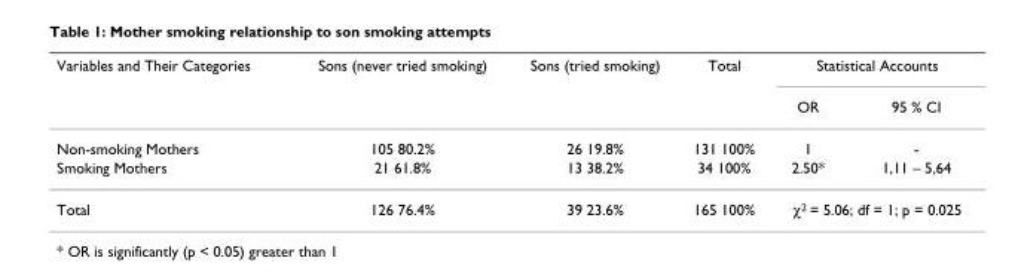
<table><thead><tr><td rowspan="2">Variables and Their Categories</td><td rowspan="2">Sons (never tried smoking)</td><td rowspan="2">Sons (tried smoking)</td><td rowspan="2">Total</td><td colspan="2">Statistical Accounts</td></tr><tr><td>OR</td><td>95 % CI</td></tr></thead><tbody><tr><td>Non-smoking Mothers</td><td>105 80.2%</td><td>26 19.8%</td><td>131 100%</td><td>1</td><td>-</td></tr><tr><td>Smoking Mothers</td><td>21 61.8%</td><td>13 38.2%</td><td>34 100%</td><td>2.50*</td><td>1,11 – 5,64</td></tr><tr><td>Total</td><td>126 76.4%</td><td>39 23.6%</td><td>165 100%</td><td colspan="2">χ2 = 5.06; df = 1; p = 0.025</td></tr></tbody></table>